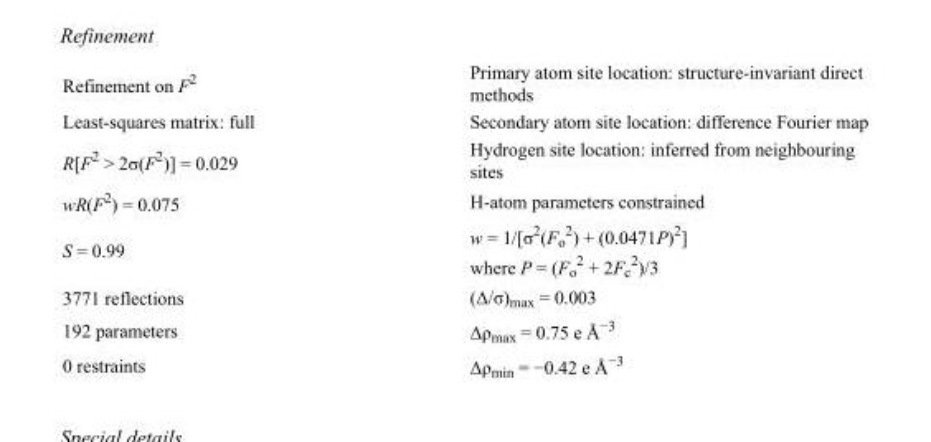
<table><tbody><tr><td>Refinement on F<sup>2</sup></td><td>Primary atom site location: structure-invariant direct methods</td></tr><tr><td>Least-squares matrix: full</td><td>Secondary atom site location: difference Fourier map</td></tr><tr><td>R[F<sup>2</sup> &gt; 2σ(F<sup>2</sup>)] = 0.029</td><td>Hydrogen site location: inferred from neighbouring sites</td></tr><tr><td>wR(F<sup>2</sup>) = 0.075</td><td>H-atom parameters constrained</td></tr><tr><td>S = 0.99</td><td>w = 1/[σ<sup>2</sup>(F<sub>o</sub> <sup>2</sup>) + (0.0471P)<sup>2</sup>] where P = (F<sub>o</sub> <sup>2</sup> + 2F<sub>c</sub> <sup>2</sup>)/3</td></tr><tr><td>3771 reflections</td><td>(Δ/σ)<sub>max</sub> = 0.003</td></tr><tr><td>192 parameters</td><td>Δρ<sub>max</sub> = 0.75 e Å<sup>−3</sup></td></tr><tr><td>0 restraints</td><td>Δρ<sub>min</sub> = −0.42 e Å<sup>−3</sup></td></tr></tbody></table>